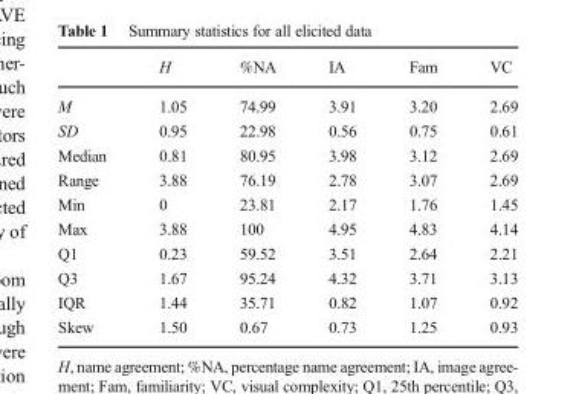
<table><thead><tr><td></td><td>H</td><td>%NA</td><td>IA</td><td>Fam</td><td>VC</td></tr></thead><tbody><tr><td>M</td><td>1.05</td><td>74.99</td><td>3.91</td><td>3.20</td><td>2.69</td></tr><tr><td>SD</td><td>0.95</td><td>22.98</td><td>0.56</td><td>0.75</td><td>0.61</td></tr><tr><td>Median</td><td>0.81</td><td>80.95</td><td>3.98</td><td>3.12</td><td>2.69</td></tr><tr><td>Range</td><td>3.88</td><td>76.19</td><td>2.78</td><td>3.07</td><td>2.69</td></tr><tr><td>Min</td><td>0</td><td>23.81</td><td>2.17</td><td>1.76</td><td>1.45</td></tr><tr><td>Max</td><td>3.88</td><td>100</td><td>4.95</td><td>4.83</td><td>4.14</td></tr><tr><td>Q1</td><td>0.23</td><td>59.52</td><td>3.51</td><td>2.64</td><td>2.21</td></tr><tr><td>Q3</td><td>1.67</td><td>95.24</td><td>4.32</td><td>3.71</td><td>3.13</td></tr><tr><td>IQR</td><td>1.44</td><td>35.71</td><td>0.82</td><td>1.07</td><td>0.92</td></tr><tr><td>Skew</td><td>1.50</td><td>0.67</td><td>0.73</td><td>1.25</td><td>0.93</td></tr></tbody></table>